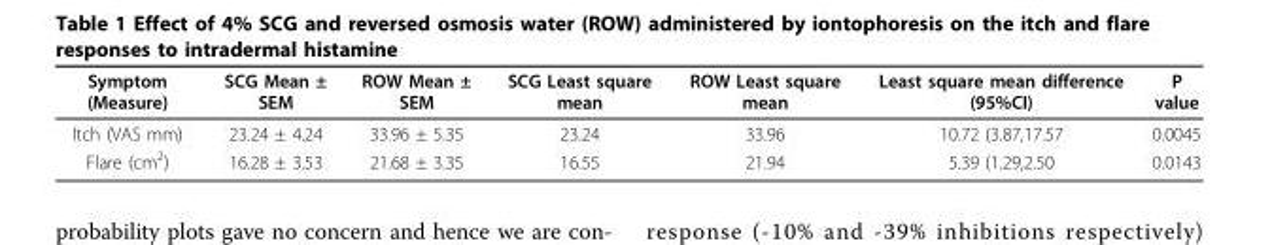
<table><thead><tr><td>Symptom (Measure)</td><td>SCG Mean ± SEM</td><td>ROW Mean ± SEM</td><td>SCG Least square mean</td><td>ROW Least square mean</td><td>Least square mean difference (95%CI)</td><td>P value</td></tr></thead><tbody><tr><td>Itch (VAS mm)</td><td>23.24 ± 4.24</td><td>33.96 ± 5.35</td><td>23.24</td><td>33.96</td><td>10.72 (3.87,17.57</td><td>0.0045</td></tr><tr><td>Flare (cm<sup>2</sup>)</td><td>16.28 ± 3.53</td><td>21.68 ± 3.35</td><td>16.55</td><td>21.94</td><td>5.39 (1.29,2.50</td><td>0.0143</td></tr></tbody></table>